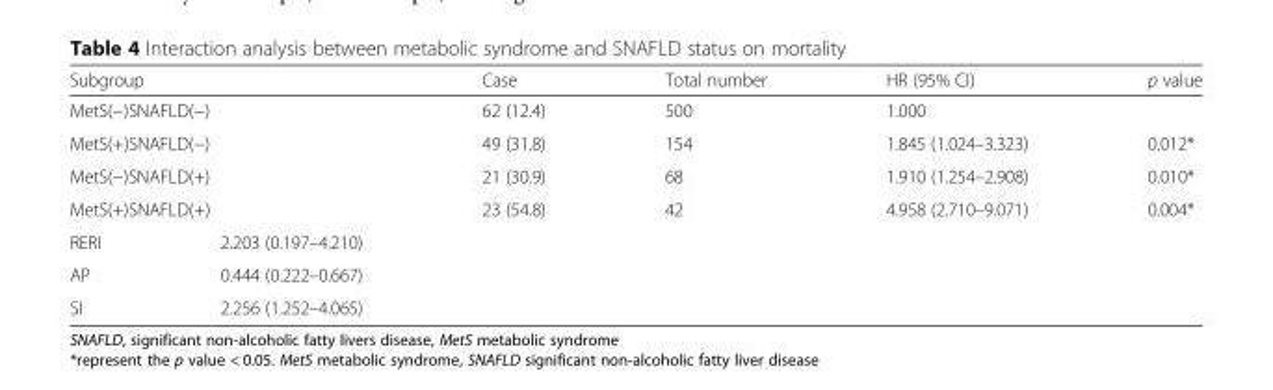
<table><thead><tr><td colspan="2">Subgroup</td><td>Case</td><td>Total number</td><td>HR (95% CI)</td><td>p value</td></tr></thead><tbody><tr><td colspan="2">MetS(−)SNAFLD(−)</td><td>62 (12.4)</td><td>500</td><td colspan="2">1.000</td></tr><tr><td colspan="2">MetS(+)SNAFLD(−)</td><td>49 (31.8)</td><td>154</td><td>1.845 (1.024–3.323)</td><td>0.012*</td></tr><tr><td colspan="2">MetS(−)SNAFLD(+)</td><td>21 (30.9)</td><td>68</td><td>1.910 (1.254–2.908)</td><td>0.010*</td></tr><tr><td colspan="2">MetS(+)SNAFLD(+)</td><td>23 (54.8)</td><td>42</td><td>4.958 (2.710–9.071)</td><td>0.004*</td></tr><tr><td>RERI</td><td>2.203 (0.197–4.210)</td><td rowspan="3" colspan="4"></td></tr><tr><td>AP</td><td>0.444 (0.222–0.667)</td></tr><tr><td>SI</td><td>2.256 (1.252–4.065)</td></tr></tbody></table>